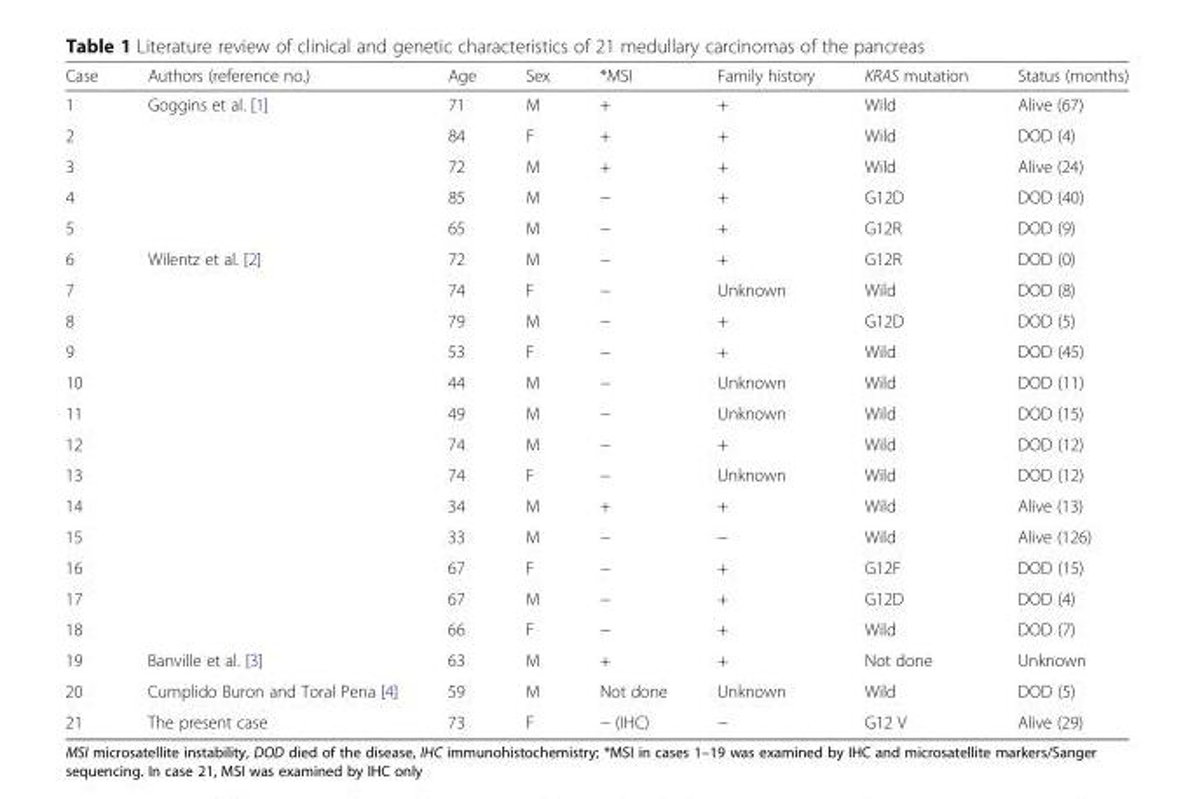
<table><thead><tr><td>Case</td><td>Authors (reference no.)</td><td>Age</td><td>Sex</td><td>*MSI</td><td>Family history</td><td>KRAS mutation</td><td>Status (months)</td></tr></thead><tbody><tr><td>1</td><td rowspan="5">Goggins et al. [1]</td><td>71</td><td>M</td><td>+</td><td>+</td><td>Wild</td><td>Alive (67)</td></tr><tr><td>2</td><td>84</td><td>F</td><td>+</td><td>+</td><td>Wild</td><td>DOD (4)</td></tr><tr><td>3</td><td>72</td><td>M</td><td>+</td><td>+</td><td>Wild</td><td>Alive (24)</td></tr><tr><td>4</td><td>85</td><td>M</td><td>−</td><td>+</td><td>G12D</td><td>DOD (40)</td></tr><tr><td>5</td><td>65</td><td>M</td><td>−</td><td>+</td><td>G12R</td><td>DOD (9)</td></tr><tr><td>6</td><td rowspan="13">Wilentz et al. [2]</td><td>72</td><td>M</td><td>−</td><td>+</td><td>G12R</td><td>DOD (0)</td></tr><tr><td>7</td><td>74</td><td>F</td><td>−</td><td>Unknown</td><td>Wild</td><td>DOD (8)</td></tr><tr><td>8</td><td>79</td><td>M</td><td>−</td><td>+</td><td>G12D</td><td>DOD (5)</td></tr><tr><td>9</td><td>53</td><td>F</td><td>−</td><td>+</td><td>Wild</td><td>DOD (45)</td></tr><tr><td>10</td><td>44</td><td>M</td><td>−</td><td>Unknown</td><td>Wild</td><td>DOD (11)</td></tr><tr><td>11</td><td>49</td><td>M</td><td>−</td><td>Unknown</td><td>Wild</td><td>DOD (15)</td></tr><tr><td>12</td><td>74</td><td>M</td><td>−</td><td>+</td><td>Wild</td><td>DOD (12)</td></tr><tr><td>13</td><td>74</td><td>F</td><td>−</td><td>Unknown</td><td>Wild</td><td>DOD (12)</td></tr><tr><td>14</td><td>34</td><td>M</td><td>+</td><td>+</td><td>Wild</td><td>Alive (13)</td></tr><tr><td>15</td><td>33</td><td>M</td><td>−</td><td>−</td><td>Wild</td><td>Alive (126)</td></tr><tr><td>16</td><td>67</td><td>F</td><td>−</td><td>+</td><td>G12F</td><td>DOD (15)</td></tr><tr><td>17</td><td>67</td><td>M</td><td>−</td><td>+</td><td>G12D</td><td>DOD (4)</td></tr><tr><td>18</td><td>66</td><td>F</td><td>−</td><td>+</td><td>Wild</td><td>DOD (7)</td></tr><tr><td>19</td><td>Banville et al. [3]</td><td>63</td><td>M</td><td>+</td><td>+</td><td>Not done</td><td>Unknown</td></tr><tr><td>20</td><td>Cumplido Buron and Toral Pena [4]</td><td>59</td><td>M</td><td>Not done</td><td>Unknown</td><td>Wild</td><td>DOD (5)</td></tr><tr><td>21</td><td>The present case</td><td>73</td><td>F</td><td>− (IHC)</td><td>−</td><td>G12 V</td><td>Alive (29)</td></tr></tbody></table>